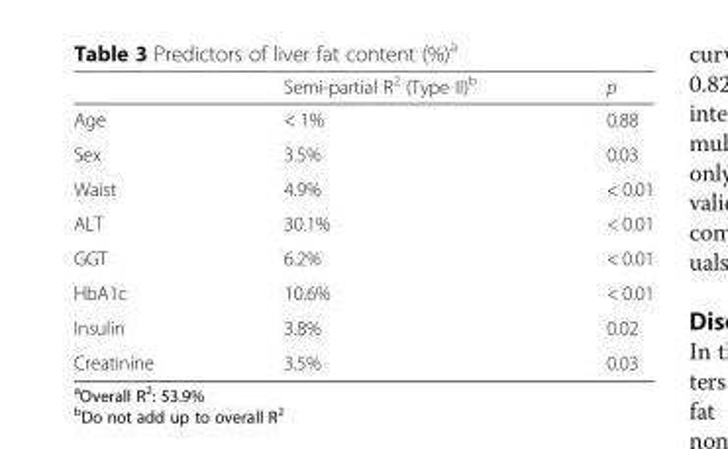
<table><thead><tr><td></td><td>Semi-partial R<sup>2</sup> (Type II)<sup>b</sup></td><td>p</td></tr></thead><tbody><tr><td>Age</td><td>&lt; 1%</td><td>0.88</td></tr><tr><td>Sex</td><td>3.5%</td><td>0.03</td></tr><tr><td>Waist</td><td>4.9%</td><td>&lt; 0.01</td></tr><tr><td>ALT</td><td>30.1%</td><td>&lt; 0.01</td></tr><tr><td>GGT</td><td>6.2%</td><td>&lt; 0.01</td></tr><tr><td>HbA1c</td><td>10.6%</td><td>&lt; 0.01</td></tr><tr><td>Insulin</td><td>3.8%</td><td>0.02</td></tr><tr><td>Creatinine</td><td>3.5%</td><td>0.03</td></tr></tbody></table>